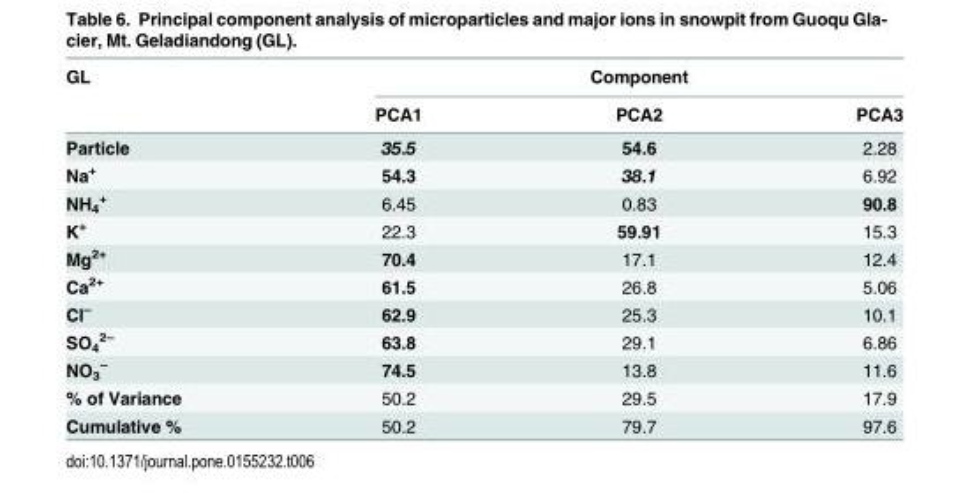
<table><thead><tr><td rowspan="2">GL</td><td colspan="3">Component</td></tr><tr><td>PCA1</td><td>PCA2</td><td>PCA3</td></tr></thead><tbody><tr><td>Particle</td><td>35.5</td><td>54.6</td><td>2.28</td></tr><tr><td>Na<sup>+</sup></td><td>54.3</td><td>38.1</td><td>6.92</td></tr><tr><td>NH<sub>4</sub> <sup>+</sup></td><td>6.45</td><td>0.83</td><td>90.8</td></tr><tr><td>K<sup>+</sup></td><td>22.3</td><td>59.91</td><td>15.3</td></tr><tr><td>Mg<sup>2+</sup></td><td>70.4</td><td>17.1</td><td>12.4</td></tr><tr><td>Ca<sup>2+</sup></td><td>61.5</td><td>26.8</td><td>5.06</td></tr><tr><td>Cl<sup>–</sup></td><td>62.9</td><td>25.3</td><td>10.1</td></tr><tr><td>SO<sub>4</sub> <sup>2–</sup></td><td>63.8</td><td>29.1</td><td>6.86</td></tr><tr><td>NO<sub>3</sub> <sup>–</sup></td><td>74.5</td><td>13.8</td><td>11.6</td></tr><tr><td>% of Variance</td><td>50.2</td><td>29.5</td><td>17.9</td></tr><tr><td>Cumulative %</td><td>50.2</td><td>79.7</td><td>97.6</td></tr></tbody></table>